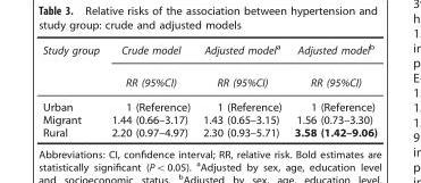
<table><thead><tr><td rowspan="2">Study group</td><td rowspan="2">Crude model RR (95%CI)</td><td rowspan="2">Adjusted model<sup>a</sup> RR (95%CI)</td><td rowspan="2">Adjusted model<sup>b</sup> RR (95%CI)</td></tr><tr></tr></thead><tbody><tr><td>Urban</td><td>1 (Reference)</td><td>1 (Reference)</td><td>1 (Reference)</td></tr><tr><td>Migrant</td><td>1.44 (0.66–3.17)</td><td>1.43 (0.65–3.15)</td><td>1.56 (0.73–3.30)</td></tr><tr><td>Rural</td><td>2.20 (0.97–4.97)</td><td>2.30 (0.93–5.71)</td><td>3.58 (1.42–9.06)</td></tr></tbody></table>